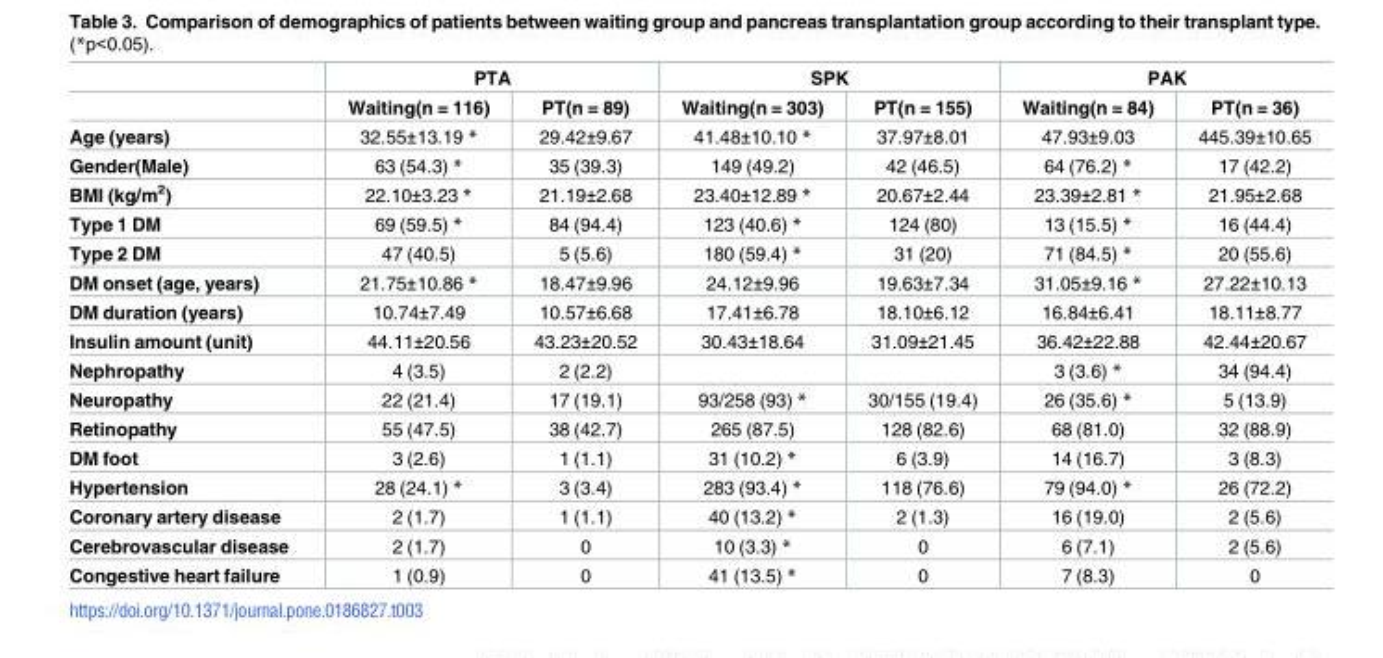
<table><thead><tr><td rowspan="2"></td><td colspan="2">PTA</td><td colspan="2">SPK</td><td colspan="2">PAK</td></tr><tr><td>Waiting(n = 116)</td><td>PT(n = 89)</td><td>Waiting(n = 303)</td><td>PT(n = 155)</td><td>Waiting(n = 84)</td><td>PT(n = 36)</td></tr></thead><tbody><tr><td>Age (years)</td><td>32.55±13.19 *</td><td>29.42±9.67</td><td>41.48±10.10 *</td><td>37.97±8.01</td><td>47.93±9.03</td><td>445.39±10.65</td></tr><tr><td>Gender(Male)</td><td>63 (54.3) *</td><td>35 (39.3)</td><td>149 (49.2)</td><td>42 (46.5)</td><td>64 (76.2) *</td><td>17 (42.2)</td></tr><tr><td>BMI (kg/m<sup>2</sup>)</td><td>22.10±3.23 *</td><td>21.19±2.68</td><td>23.40±12.89 *</td><td>20.67±2.44</td><td>23.39±2.81 *</td><td>21.95±2.68</td></tr><tr><td>Type 1 DM</td><td>69 (59.5) *</td><td>84 (94.4)</td><td>123 (40.6) *</td><td>124 (80)</td><td>13 (15.5) *</td><td>16 (44.4)</td></tr><tr><td>Type 2 DM</td><td>47 (40.5)</td><td>5 (5.6)</td><td>180 (59.4) *</td><td>31 (20)</td><td>71 (84.5) *</td><td>20 (55.6)</td></tr><tr><td>DM onset (age, years)</td><td>21.75±10.86 *</td><td>18.47±9.96</td><td>24.12±9.96</td><td>19.63±7.34</td><td>31.05±9.16 *</td><td>27.22±10.13</td></tr><tr><td>DM duration (years)</td><td>10.74±7.49</td><td>10.57±6.68</td><td>17.41±6.78</td><td>18.10±6.12</td><td>16.84±6.41</td><td>18.11±8.77</td></tr><tr><td>Insulin amount (unit)</td><td>44.11±20.56</td><td>43.23±20.52</td><td>30.43±18.64</td><td>31.09±21.45</td><td>36.42±22.88</td><td>42.44±20.67</td></tr><tr><td>Nephropathy</td><td>4 (3.5)</td><td>2 (2.2)</td><td></td><td></td><td>3 (3.6) *</td><td>34 (94.4)</td></tr><tr><td>Neuropathy</td><td>22 (21.4)</td><td>17 (19.1)</td><td>93/258 (93) *</td><td>30/155 (19.4)</td><td>26 (35.6) *</td><td>5 (13.9)</td></tr><tr><td>Retinopathy</td><td>55 (47.5)</td><td>38 (42.7)</td><td>265 (87.5)</td><td>128 (82.6)</td><td>68 (81.0)</td><td>32 (88.9)</td></tr><tr><td>DM foot</td><td>3 (2.6)</td><td>1 (1.1)</td><td>31 (10.2) *</td><td>6 (3.9)</td><td>14 (16.7)</td><td>3 (8.3)</td></tr><tr><td>Hypertension</td><td>28 (24.1) *</td><td>3 (3.4)</td><td>283 (93.4) *</td><td>118 (76.6)</td><td>79 (94.0) *</td><td>26 (72.2)</td></tr><tr><td>Coronary artery disease</td><td>2 (1.7)</td><td>1 (1.1)</td><td>40 (13.2) *</td><td>2 (1.3)</td><td>16 (19.0)</td><td>2 (5.6)</td></tr><tr><td>Cerebrovascular disease</td><td>2 (1.7)</td><td>0</td><td>10 (3.3) *</td><td>0</td><td>6 (7.1)</td><td>2 (5.6)</td></tr><tr><td>Congestive heart failure</td><td>1 (0.9)</td><td>0</td><td>41 (13.5) *</td><td>0</td><td>7 (8.3)</td><td>0</td></tr></tbody></table>